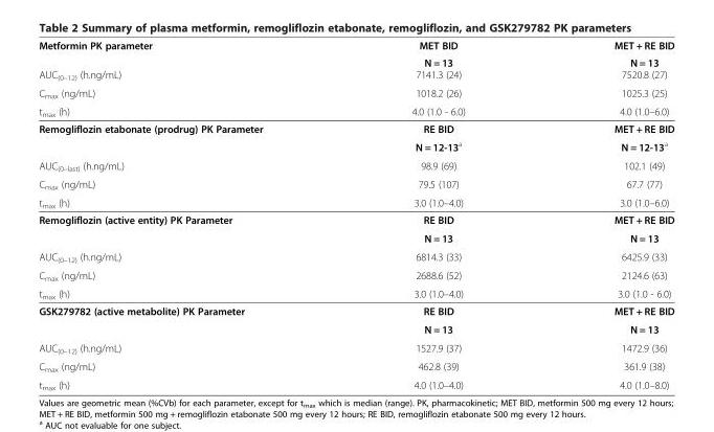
<table><thead><tr><td rowspan="2">Metformin PK parameter</td><td rowspan="2">MET BID N = 13</td><td rowspan="2">MET + RE BID N = 13</td></tr><tr></tr></thead><tbody><tr><td>AUC<sub>(0–12)</sub> (h.ng/mL)</td><td>7141.3 (24)</td><td>7520.8 (27)</td></tr><tr><td>C<sub>max</sub> (ng/mL)</td><td>1018.2 (26)</td><td>1025.3 (25)</td></tr><tr><td>t<sub>max</sub> (h)</td><td>4.0 (1.0 - 6.0)</td><td>4.0 (1.0–6.0)</td></tr><tr><td rowspan="2">Remogliflozin etabonate (prodrug) PK Parameter</td><td>RE BID</td><td>MET + RE BID</td></tr><tr><td>N = 12-13<sup>a</sup></td><td>N = 12-13<sup>a</sup></td></tr><tr><td>AUC<sub>(0–last)</sub> (h.ng/mL)</td><td>98.9 (69)</td><td>102.1 (49)</td></tr><tr><td>C<sub>max</sub> (ng/mL)</td><td>79.5 (107)</td><td>67.7 (77)</td></tr><tr><td>t<sub>max</sub> (h)</td><td>3.0 (1.0–4.0)</td><td>3.0 (1.0–6.0)</td></tr><tr><td rowspan="2">Remogliflozin (active entity) PK Parameter</td><td>RE BID</td><td>MET + RE BID</td></tr><tr><td>N = 13</td><td>N = 13</td></tr><tr><td>AUC<sub>(0–12)</sub> (h.ng/mL)</td><td>6814.3 (33)</td><td>6425.9 (33)</td></tr><tr><td>C<sub>max</sub> (ng/mL)</td><td>2688.6 (52)</td><td>2124.6 (63)</td></tr><tr><td>t<sub>max</sub> (h)</td><td>3.0 (1.0–4.0)</td><td>3.0 (1.0 - 6.0)</td></tr><tr><td rowspan="2">GSK279782 (active metabolite) PK Parameter</td><td>RE BID</td><td>MET + RE BID</td></tr><tr><td>N = 13</td><td>N = 13</td></tr><tr><td>AUC<sub>(0–12)</sub> (h.ng/mL)</td><td>1527.9 (37)</td><td>1472.9 (36)</td></tr><tr><td>C<sub>max</sub> (ng/mL)</td><td>462.8 (39)</td><td>361.9 (38)</td></tr><tr><td>t<sub>max</sub> (h)</td><td>4.0 (1.0–4.0)</td><td>4.0 (1.0–8.0)</td></tr></tbody></table>